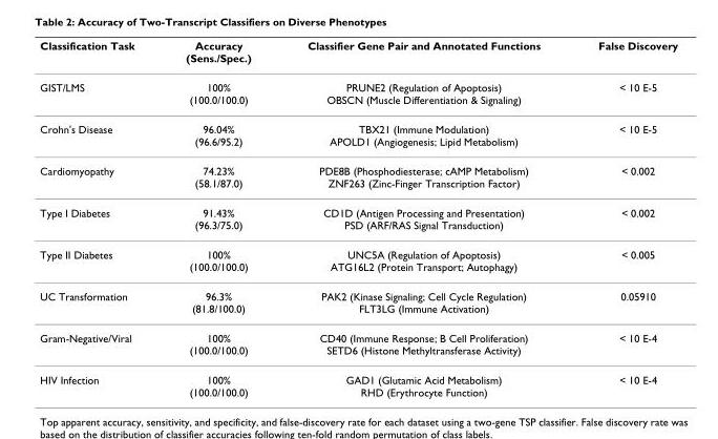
<table><thead><tr><td>Classification Task</td><td>Accuracy (Sens./Spec.)</td><td>Classifier Gene Pair and Annotated Functions</td><td>False Discovery</td></tr></thead><tbody><tr><td>GIST/LMS</td><td>100% (100.0/100.0)</td><td>PRUNE2 (Regulation of Apoptosis) OBSCN (Muscle Differentiation &amp; Signaling)</td><td>&lt; 10 E-5</td></tr><tr><td>Crohn&#x27;s Disease</td><td>96.04% (96.6/95.2)</td><td>TBX21 (Immune Modulation) APOLD1 (Angiogenesis; Lipid Metabolism)</td><td>&lt; 10 E-5</td></tr><tr><td>Cardiomyopathy</td><td>74.23% (58.1/87.0)</td><td>PDE8B (Phosphodiesterase; cAMP Metabolism) ZNF263 (Zinc-Finger Transcription Factor)</td><td>&lt; 0.002</td></tr><tr><td>Type I Diabetes</td><td>91.43% (96.3/75.0)</td><td>CD1D (Antigen Processing and Presentation) PSD (ARF/RAS Signal Transduction)</td><td>&lt; 0.002</td></tr><tr><td>Type II Diabetes</td><td>100% (100.0/100.0)</td><td>UNC5A (Regulation of Apoptosis) ATG16L2 (Protein Transport; Autophagy)</td><td>&lt; 0.005</td></tr><tr><td>UC Transformation</td><td>96.3% (81.8/100.0)</td><td>PAK2 (Kinase Signaling; Cell Cycle Regulation) FLT3LG (Immune Activation)</td><td>0.05910</td></tr><tr><td>Gram-Negative/Viral</td><td>100% (100.0/100.0)</td><td>CD40 (Immune Response; B Cell Proliferation) SETD6 (Histone Methyltransferase Activity)</td><td>&lt; 10 E-4</td></tr><tr><td>HIV Infection</td><td>100% (100.0/100.0)</td><td>GAD1 (Glutamic Acid Metabolism) RHD (Erythrocyte Function)</td><td>&lt; 10 E-4</td></tr></tbody></table>